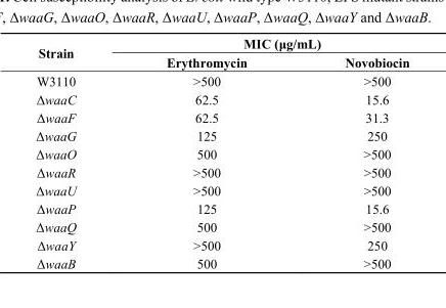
<table><thead><tr><td rowspan="2">Strain</td><td colspan="2">MIC (μg/mL)</td></tr><tr><td>Erythromycin</td><td>Novobiocin</td></tr></thead><tbody><tr><td>W3110</td><td>&gt;500</td><td>&gt;500</td></tr><tr><td>ΔwaaC</td><td>62.5</td><td>15.6</td></tr><tr><td>ΔwaaF</td><td>62.5</td><td>31.3</td></tr><tr><td>ΔwaaG</td><td>125</td><td>250</td></tr><tr><td>ΔwaaO</td><td>500</td><td>&gt;500</td></tr><tr><td>ΔwaaR</td><td>&gt;500</td><td>&gt;500</td></tr><tr><td>ΔwaaU</td><td>&gt;500</td><td>&gt;500</td></tr><tr><td>ΔwaaP</td><td>125</td><td>15.6</td></tr><tr><td>ΔwaaQ</td><td>500</td><td>&gt;500</td></tr><tr><td>ΔwaaY</td><td>&gt;500</td><td>250</td></tr><tr><td>ΔwaaB</td><td>500</td><td>&gt;500</td></tr></tbody></table>